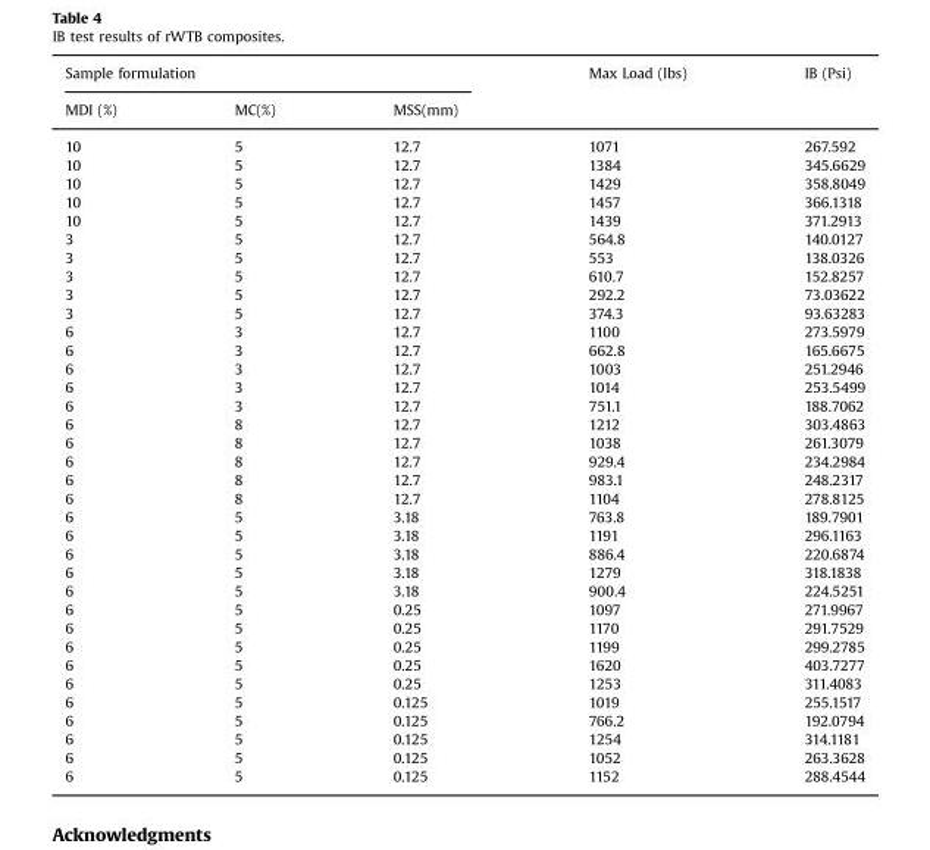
<table><thead><tr><td colspan="3">Sample formulation</td><td rowspan="2">Max Load (lbs)</td><td rowspan="2">IB (Psi)</td></tr><tr><td>MDI (%)</td><td>MC(%)</td><td>MSS(mm)</td></tr></thead><tbody><tr><td>10</td><td>5</td><td>12.7</td><td>1071</td><td>267.592</td></tr><tr><td>10</td><td>5</td><td>12.7</td><td>1384</td><td>345.6629</td></tr><tr><td>10</td><td>5</td><td>12.7</td><td>1429</td><td>358.8049</td></tr><tr><td>10</td><td>5</td><td>12.7</td><td>1457</td><td>366.1318</td></tr><tr><td>10</td><td>5</td><td>12.7</td><td>1439</td><td>371.2913</td></tr><tr><td>3</td><td>5</td><td>12.7</td><td>564.8</td><td>140.0127</td></tr><tr><td>3</td><td>5</td><td>12.7</td><td>553</td><td>138.0326</td></tr><tr><td>3</td><td>5</td><td>12.7</td><td>610.7</td><td>152.8257</td></tr><tr><td>3</td><td>5</td><td>12.7</td><td>292.2</td><td>73.03622</td></tr><tr><td>3</td><td>5</td><td>12.7</td><td>374.3</td><td>93.63283</td></tr><tr><td>6</td><td>3</td><td>12.7</td><td>1100</td><td>273.5979</td></tr><tr><td>6</td><td>3</td><td>12.7</td><td>662.8</td><td>165.6675</td></tr><tr><td>6</td><td>3</td><td>12.7</td><td>1003</td><td>251.2946</td></tr><tr><td>6</td><td>3</td><td>12.7</td><td>1014</td><td>253.5499</td></tr><tr><td>6</td><td>3</td><td>12.7</td><td>751.1</td><td>188.7062</td></tr><tr><td>6</td><td>8</td><td>12.7</td><td>1212</td><td>303.4863</td></tr><tr><td>6</td><td>8</td><td>12.7</td><td>1038</td><td>261.3079</td></tr><tr><td>6</td><td>8</td><td>12.7</td><td>929.4</td><td>234.2984</td></tr><tr><td>6</td><td>8</td><td>12.7</td><td>983.1</td><td>248.2317</td></tr><tr><td>6</td><td>8</td><td>12.7</td><td>1104</td><td>278.8125</td></tr><tr><td>6</td><td>5</td><td>3.18</td><td>763.8</td><td>189.7901</td></tr><tr><td>6</td><td>5</td><td>3.18</td><td>1191</td><td>296.1163</td></tr><tr><td>6</td><td>5</td><td>3.18</td><td>886.4</td><td>220.6874</td></tr><tr><td>6</td><td>5</td><td>3.18</td><td>1279</td><td>318.1838</td></tr><tr><td>6</td><td>5</td><td>3.18</td><td>900.4</td><td>224.5251</td></tr><tr><td>6</td><td>5</td><td>0.25</td><td>1097</td><td>271.9967</td></tr><tr><td>6</td><td>5</td><td>0.25</td><td>1170</td><td>291.7529</td></tr><tr><td>6</td><td>5</td><td>0.25</td><td>1199</td><td>299.2785</td></tr><tr><td>6</td><td>5</td><td>0.25</td><td>1620</td><td>403.7277</td></tr><tr><td>6</td><td>5</td><td>0.25</td><td>1253</td><td>311.4083</td></tr><tr><td>6</td><td>5</td><td>0.125</td><td>1019</td><td>255.1517</td></tr><tr><td>6</td><td>5</td><td>0.125</td><td>766.2</td><td>192.0794</td></tr><tr><td>6</td><td>5</td><td>0.125</td><td>1254</td><td>314.1181</td></tr><tr><td>6</td><td>5</td><td>0.125</td><td>1052</td><td>263.3628</td></tr><tr><td>6</td><td>5</td><td>0.125</td><td>1152</td><td>288.4544</td></tr></tbody></table>